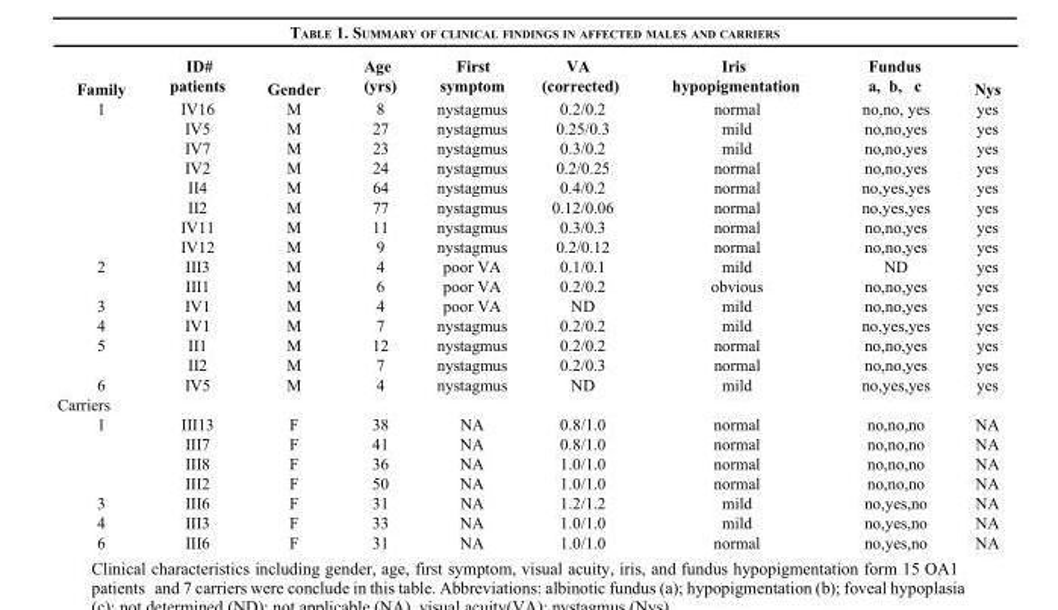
<table><thead><tr><td>Family</td><td>ID# patients</td><td>Gender</td><td>Age (yrs)</td><td>First symptom</td><td>VA (corrected)</td><td>Iris hypopigmentation</td><td>Fundus a, b, c</td><td>Nys</td></tr></thead><tbody><tr><td rowspan="8">1</td><td>IV16</td><td>M</td><td>8</td><td>nystagmus</td><td>0.2/0.2</td><td>normal</td><td>no,no, yes</td><td>yes</td></tr><tr><td>IV5</td><td>M</td><td>27</td><td>nystagmus</td><td>0.25/0.3</td><td>mild</td><td>no,no,yes</td><td>yes</td></tr><tr><td>IV7</td><td>M</td><td>23</td><td>nystagmus</td><td>0.3/0.2</td><td>mild</td><td>no,no,yes</td><td>yes</td></tr><tr><td>IV2</td><td>M</td><td>24</td><td>nystagmus</td><td>0.2/0.25</td><td>normal</td><td>no,no,yes</td><td>yes</td></tr><tr><td>II4</td><td>M</td><td>64</td><td>nystagmus</td><td>0.4/0.2</td><td>normal</td><td>no,yes,yes</td><td>yes</td></tr><tr><td>II2</td><td>M</td><td>77</td><td>nystagmus</td><td>0.12/0.06</td><td>normal</td><td>no,yes,yes</td><td>yes</td></tr><tr><td>IV11</td><td>M</td><td>11</td><td>nystagmus</td><td>0.3/0.3</td><td>normal</td><td>no,no,yes</td><td>yes</td></tr><tr><td>IV12</td><td>M</td><td>9</td><td>nystagmus</td><td>0.2/0.12</td><td>normal</td><td>no,no,yes</td><td>yes</td></tr><tr><td rowspan="2">2</td><td>III3</td><td>M</td><td>4</td><td>poor VA</td><td>0.1/0.1</td><td>mild</td><td>ND</td><td>yes</td></tr><tr><td>III1</td><td>M</td><td>6</td><td>poor VA</td><td>0.2/0.2</td><td>obvious</td><td>no,no,yes</td><td>yes</td></tr><tr><td>3</td><td>IV1</td><td>M</td><td>4</td><td>poor VA</td><td>ND</td><td>mild</td><td>no,no,yes</td><td>yes</td></tr><tr><td>4</td><td>IV1</td><td>M</td><td>7</td><td>nystagmus</td><td>0.2/0.2</td><td>mild</td><td>no,yes,yes</td><td>yes</td></tr><tr><td rowspan="2">5</td><td>II1</td><td>M</td><td>12</td><td>nystagmus</td><td>0.2/0.2</td><td>normal</td><td>no,no,yes</td><td>yes</td></tr><tr><td>II2</td><td>M</td><td>7</td><td>nystagmus</td><td>0.2/0.3</td><td>normal</td><td>no,no,yes</td><td>yes</td></tr><tr><td>6</td><td>IV5</td><td>M</td><td>4</td><td>nystagmus</td><td>ND</td><td>mild</td><td>no,yes,yes</td><td>yes</td></tr><tr><td colspan="9">Carriers</td></tr><tr><td rowspan="4">1</td><td>III13</td><td>F</td><td>38</td><td>NA</td><td>0.8/1.0</td><td>normal</td><td>no,no,no</td><td>NA</td></tr><tr><td>III7</td><td>F</td><td>41</td><td>NA</td><td>0.8/1.0</td><td>normal</td><td>no,no,no</td><td>NA</td></tr><tr><td>III8</td><td>F</td><td>36</td><td>NA</td><td>1.0/1.0</td><td>normal</td><td>no,no,no</td><td>NA</td></tr><tr><td>III2</td><td>F</td><td>50</td><td>NA</td><td>1.0/1.0</td><td>normal</td><td>no,no,no</td><td>NA</td></tr><tr><td>3</td><td>III6</td><td>F</td><td>31</td><td>NA</td><td>1.2/1.2</td><td>mild</td><td>no,yes,no</td><td>NA</td></tr><tr><td>4</td><td>III3</td><td>F</td><td>33</td><td>NA</td><td>1.0/1.0</td><td>mild</td><td>no,yes,no</td><td>NA</td></tr><tr><td>6</td><td>III6</td><td>F</td><td>31</td><td>NA</td><td>1.0/1.0</td><td>normal</td><td>no,yes,no</td><td>NA</td></tr></tbody></table>